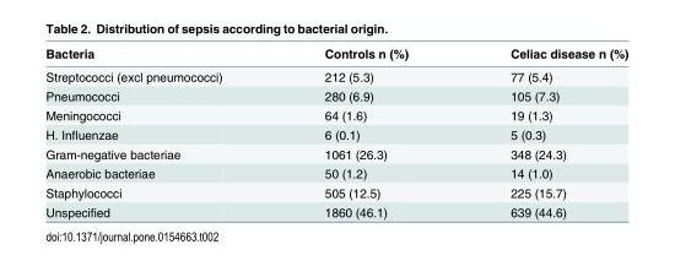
<table><thead><tr><td>Bacteria</td><td>Controls n (%)</td><td>Celiac disease n (%)</td></tr></thead><tbody><tr><td>Streptococci (excl pneumococci)</td><td>212 (5.3)</td><td>77 (5.4)</td></tr><tr><td>Pneumococci</td><td>280 (6.9)</td><td>105 (7.3)</td></tr><tr><td>Meningococci</td><td>64 (1.6)</td><td>19 (1.3)</td></tr><tr><td>H. Influenzae</td><td>6 (0.1)</td><td>5 (0.3)</td></tr><tr><td>Gram-negative bacteriae</td><td>1061 (26.3)</td><td>348 (24.3)</td></tr><tr><td>Anaerobic bacteriae</td><td>50 (1.2)</td><td>14 (1.0)</td></tr><tr><td>Staphylococci</td><td>505 (12.5)</td><td>225 (15.7)</td></tr><tr><td>Unspecified</td><td>1860 (46.1)</td><td>639 (44.6)</td></tr></tbody></table>